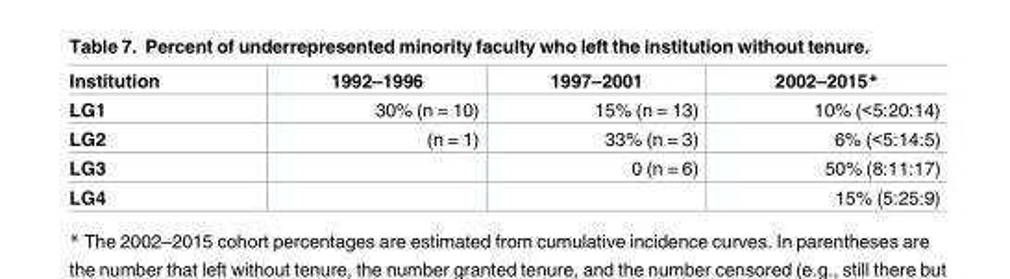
<table><thead><tr><td>Institution</td><td>1992–1996</td><td>1997–2001</td><td>2002–2015*</td></tr></thead><tbody><tr><td>LG1</td><td>30% (n = 10)</td><td>15% (n = 13)</td><td>10% (&lt;5:20:14)</td></tr><tr><td>LG2</td><td>(n = 1)</td><td>33% (n = 3)</td><td>6% (&lt;5:14:5)</td></tr><tr><td>LG3</td><td></td><td>0 (n = 6)</td><td>50% (8:11:17)</td></tr><tr><td>LG4</td><td></td><td></td><td>15% (5:25:9)</td></tr></tbody></table>